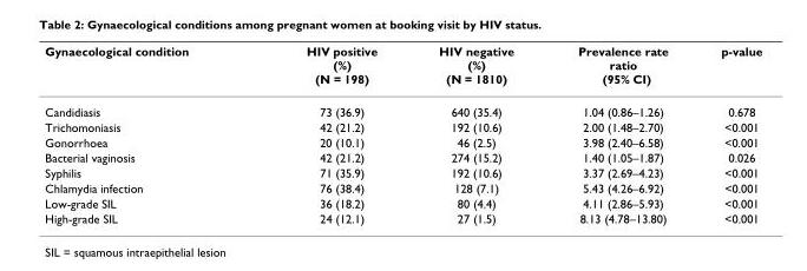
<table><thead><tr><td>Gynaecological condition</td><td>HIV positive (%) (N = 198)</td><td>HIV negative (%) (N = 1810)</td><td>Prevalence rate ratio (95% CI)</td><td>p-value</td></tr></thead><tbody><tr><td>Candidiasis</td><td>73 (36.9)</td><td>640 (35.4)</td><td>1.04 (0.86–1.26)</td><td>0.678</td></tr><tr><td>Trichomoniasis</td><td>42 (21.2)</td><td>192 (10.6)</td><td>2.00 (1.48–2.70)</td><td>&lt;0.001</td></tr><tr><td>Gonorrhoea</td><td>20 (10.1)</td><td>46 (2.5)</td><td>3.98 (2.40–6.58)</td><td>&lt;0.001</td></tr><tr><td>Bacterial vaginosis</td><td>42 (21.2)</td><td>274 (15.2)</td><td>1.40 (1.05–1.87)</td><td>0.026</td></tr><tr><td>Syphilis</td><td>71 (35.9)</td><td>192 (10.6)</td><td>3.37 (2.69–4.23)</td><td>&lt;0.001</td></tr><tr><td>Chlamydia infection</td><td>76 (38.4)</td><td>128 (7.1)</td><td>5.43 (4.26–6.92)</td><td>&lt;0.001</td></tr><tr><td>Low-grade SIL</td><td>36 (18.2)</td><td>80 (4.4)</td><td>4.11 (2.86–5.93)</td><td>&lt;0.001</td></tr><tr><td>High-grade SIL</td><td>24 (12.1)</td><td>27 (1.5)</td><td>8.13 (4.78–13.80)</td><td>&lt;0.001</td></tr></tbody></table>